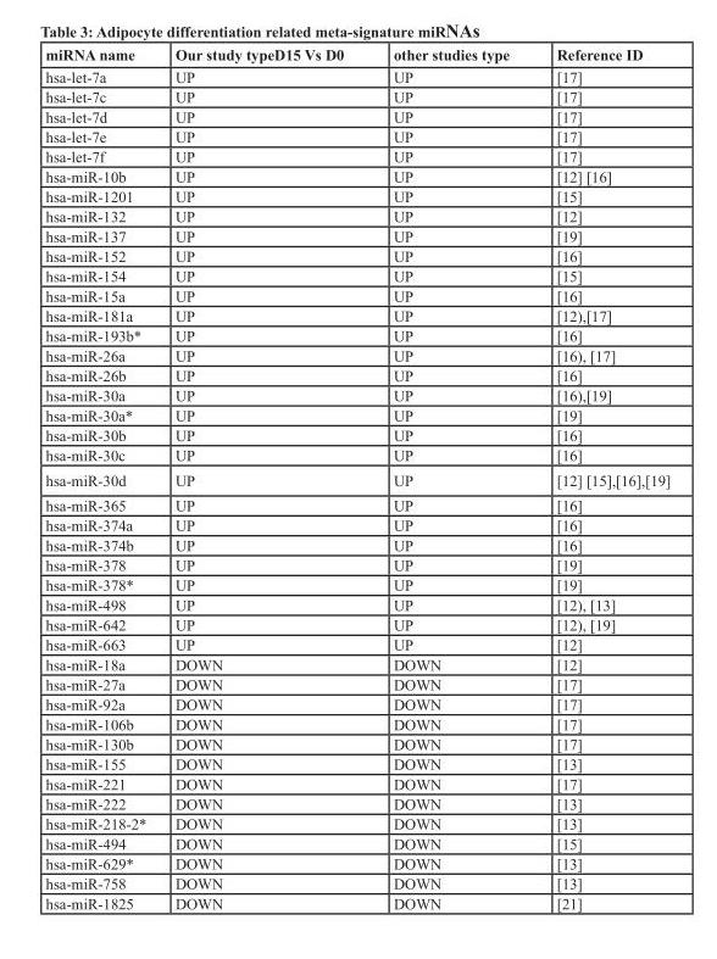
<table><thead><tr><td>miRNA name</td><td>Our study typeD15 Vs D0</td><td>other studies type</td><td>Reference ID</td></tr></thead><tbody><tr><td>hsa-let-7a</td><td>UP</td><td>UP</td><td>[17]</td></tr><tr><td>hsa-let-7c</td><td>UP</td><td>UP</td><td>[17]</td></tr><tr><td>hsa-let-7d</td><td>UP</td><td>UP</td><td>[17]</td></tr><tr><td>hsa-let-7e</td><td>UP</td><td>UP</td><td>[17]</td></tr><tr><td>hsa-let-7f</td><td>UP</td><td>UP</td><td>[17]</td></tr><tr><td>hsa-miR-10b</td><td>UP</td><td>UP</td><td>[12] [16]</td></tr><tr><td>hsa-miR-1201</td><td>UP</td><td>UP</td><td>[15]</td></tr><tr><td>hsa-miR-132</td><td>UP</td><td>UP</td><td>[12]</td></tr><tr><td>hsa-miR-137</td><td>UP</td><td>UP</td><td>[19]</td></tr><tr><td>hsa-miR-152</td><td>UP</td><td>UP</td><td>[16]</td></tr><tr><td>hsa-miR-154</td><td>UP</td><td>UP</td><td>[15]</td></tr><tr><td>hsa-miR-15a</td><td>UP</td><td>UP</td><td>[16]</td></tr><tr><td>hsa-miR-181a</td><td>UP</td><td>UP</td><td>[12),[17]</td></tr><tr><td>hsa-miR-193b*</td><td>UP</td><td>UP</td><td>[16]</td></tr><tr><td>hsa-miR-26a</td><td>UP</td><td>UP</td><td>[16), [17]</td></tr><tr><td>hsa-miR-26b</td><td>UP</td><td>UP</td><td>[16]</td></tr><tr><td>hsa-miR-30a</td><td>UP</td><td>UP</td><td>[16),[19]</td></tr><tr><td>hsa-miR-30a*</td><td>UP</td><td>UP</td><td>[19]</td></tr><tr><td>hsa-miR-30b</td><td>UP</td><td>UP</td><td>[16]</td></tr><tr><td>hsa-miR-30c</td><td>UP</td><td>UP</td><td>[16]</td></tr><tr><td>hsa-miR-30d</td><td>UP</td><td>UP</td><td>[12] [15],[16],[19]</td></tr><tr><td>hsa-miR-365</td><td>UP</td><td>UP</td><td>[16]</td></tr><tr><td>hsa-miR-374a</td><td>UP</td><td>UP</td><td>[16]</td></tr><tr><td>hsa-miR-374b</td><td>UP</td><td>UP</td><td>[16]</td></tr><tr><td>hsa-miR-378</td><td>UP</td><td>UP</td><td>[19]</td></tr><tr><td>hsa-miR-378*</td><td>UP</td><td>UP</td><td>[19]</td></tr><tr><td>hsa-miR-498</td><td>UP</td><td>UP</td><td>[12), [13]</td></tr><tr><td>hsa-miR-642</td><td>UP</td><td>UP</td><td>[12), [19]</td></tr><tr><td>hsa-miR-663</td><td>UP</td><td>UP</td><td>[12]</td></tr><tr><td>hsa-miR-18a</td><td>DOWN</td><td>DOWN</td><td>[12]</td></tr><tr><td>hsa-miR-27a</td><td>DOWN</td><td>DOWN</td><td>[17]</td></tr><tr><td>hsa-miR-92a</td><td>DOWN</td><td>DOWN</td><td>[17]</td></tr><tr><td>hsa-miR-106b</td><td>DOWN</td><td>DOWN</td><td>[17]</td></tr><tr><td>hsa-miR-130b</td><td>DOWN</td><td>DOWN</td><td>[17]</td></tr><tr><td>hsa-miR-155</td><td>DOWN</td><td>DOWN</td><td>[13]</td></tr><tr><td>hsa-miR-221</td><td>DOWN</td><td>DOWN</td><td>[17]</td></tr><tr><td>hsa-miR-222</td><td>DOWN</td><td>DOWN</td><td>[13]</td></tr><tr><td>hsa-miR-218-2*</td><td>DOWN</td><td>DOWN</td><td>[13]</td></tr><tr><td>hsa-miR-494</td><td>DOWN</td><td>DOWN</td><td>[15]</td></tr><tr><td>hsa-miR-629*</td><td>DOWN</td><td>DOWN</td><td>[13]</td></tr><tr><td>hsa-miR-758</td><td>DOWN</td><td>DOWN</td><td>[13]</td></tr><tr><td>hsa-miR-1825</td><td>DOWN</td><td>DOWN</td><td>[21]</td></tr></tbody></table>